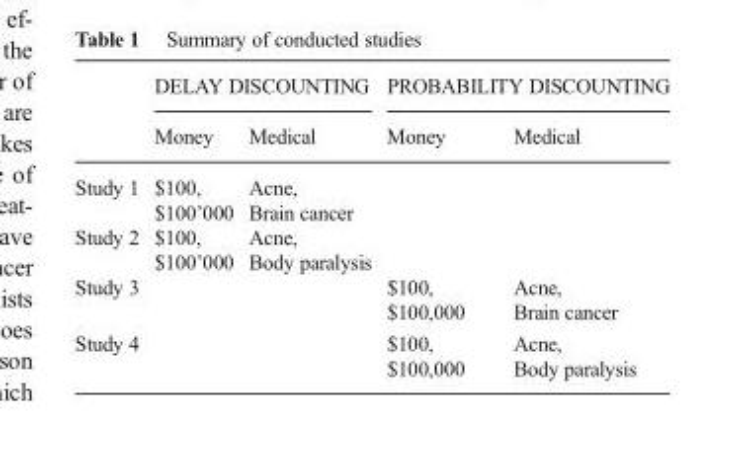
<table><thead><tr><td rowspan="2"></td><td colspan="2">DELAY DISCOUNTING</td><td colspan="2">PROBABILITY DISCOUNTING</td></tr><tr><td>Money</td><td>Medical</td><td>Money</td><td>Medical</td></tr></thead><tbody><tr><td>Study 1</td><td>$100, $100’000</td><td>Acne, Brain cancer</td><td></td><td></td></tr><tr><td>Study 2</td><td>$100, $100’000</td><td>Acne, Body paralysis</td><td></td><td></td></tr><tr><td>Study 3</td><td></td><td></td><td>$100, $100,000</td><td>Acne, Brain cancer</td></tr><tr><td>Study 4</td><td></td><td></td><td>$100, $100,000</td><td>Acne, Body paralysis</td></tr></tbody></table>